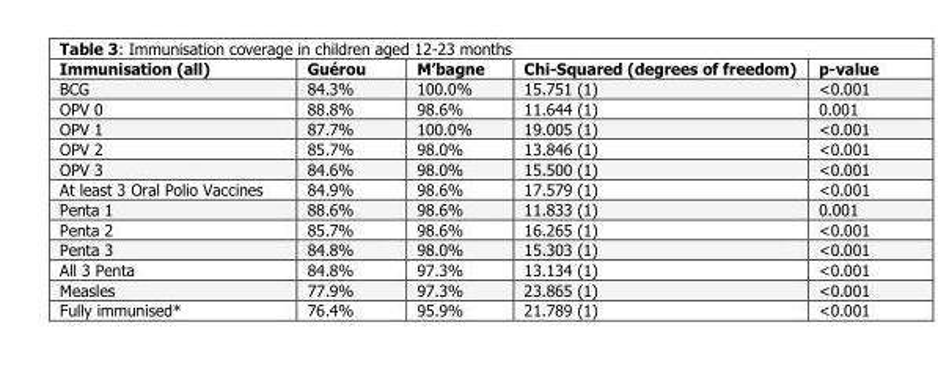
<table><thead><tr><td>Immunisation (all)</td><td>Guérou</td><td>M’bagne</td><td>Chi-Squared (degrees of freedom)</td><td>p-value</td></tr></thead><tbody><tr><td>BCG</td><td>84.3%</td><td>100.0%</td><td>15.751 (1)</td><td>&lt;0.001</td></tr><tr><td>OPV 0</td><td>88.8%</td><td>98.6%</td><td>11.644 (1)</td><td>0.001</td></tr><tr><td>OPV 1</td><td>87.7%</td><td>100.0%</td><td>19.005 (1)</td><td>&lt;0.001</td></tr><tr><td>OPV 2</td><td>85.7%</td><td>98.0%</td><td>13.846 (1)</td><td>&lt;0.001</td></tr><tr><td>OPV 3</td><td>84.6%</td><td>98.0%</td><td>15.500 (1)</td><td>&lt;0.001</td></tr><tr><td>At least 3 Oral Polio Vaccines</td><td>84.9%</td><td>98.6%</td><td>17.579 (1)</td><td>&lt;0.001</td></tr><tr><td>Penta 1</td><td>88.6%</td><td>98.6%</td><td>11.833 (1)</td><td>0.001</td></tr><tr><td>Penta 2</td><td>85.7%</td><td>98.6%</td><td>16.265 (1)</td><td>&lt;0.001</td></tr><tr><td>Penta 3</td><td>84.8%</td><td>98.0%</td><td>15.303 (1)</td><td>&lt;0.001</td></tr><tr><td>All 3 Penta</td><td>84.8%</td><td>97.3%</td><td>13.134 (1)</td><td>&lt;0.001</td></tr><tr><td>Measles</td><td>77.9%</td><td>97.3%</td><td>23.865 (1)</td><td>&lt;0.001</td></tr><tr><td>Fully immunised*</td><td>76.4%</td><td>95.9%</td><td>21.789 (1)</td><td>&lt;0.001</td></tr></tbody></table>